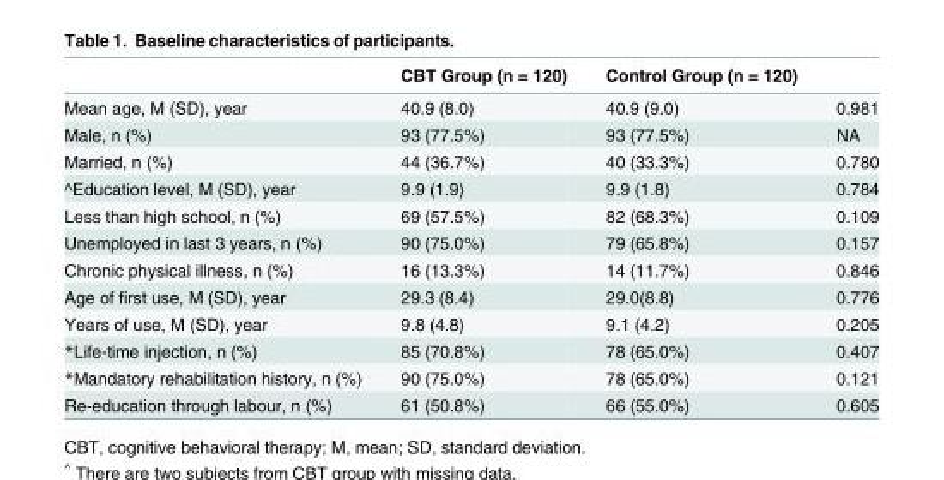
<table><thead><tr><td></td><td>CBT Group (n = 120)</td><td>Control Group (n = 120)</td><td></td></tr></thead><tbody><tr><td>Mean age, M (SD), year</td><td>40.9 (8.0)</td><td>40.9 (9.0)</td><td>0.981</td></tr><tr><td>Male, n (%)</td><td>93 (77.5%)</td><td>93 (77.5%)</td><td>NA</td></tr><tr><td>Married, n (%)</td><td>44 (36.7%)</td><td>40 (33.3%)</td><td>0.780</td></tr><tr><td>^Education level, M (SD), year</td><td>9.9 (1.9)</td><td>9.9 (1.8)</td><td>0.784</td></tr><tr><td>Less than high school, n (%)</td><td>69 (57.5%)</td><td>82 (68.3%)</td><td>0.109</td></tr><tr><td>Unemployed in last 3 years, n (%)</td><td>90 (75.0%)</td><td>79 (65.8%)</td><td>0.157</td></tr><tr><td>Chronic physical illness, n (%)</td><td>16 (13.3%)</td><td>14 (11.7%)</td><td>0.846</td></tr><tr><td>Age of first use, M (SD), year</td><td>29.3 (8.4)</td><td>29.0(8.8)</td><td>0.776</td></tr><tr><td>Years of use, M (SD), year</td><td>9.8 (4.8)</td><td>9.1 (4.2)</td><td>0.205</td></tr><tr><td>*Life-time injection, n (%)</td><td>85 (70.8%)</td><td>78 (65.0%)</td><td>0.407</td></tr><tr><td>*Mandatory rehabilitation history, n (%)</td><td>90 (75.0%)</td><td>78 (65.0%)</td><td>0.121</td></tr><tr><td>Re-education through labour, n (%)</td><td>61 (50.8%)</td><td>66 (55.0%)</td><td>0.605</td></tr></tbody></table>